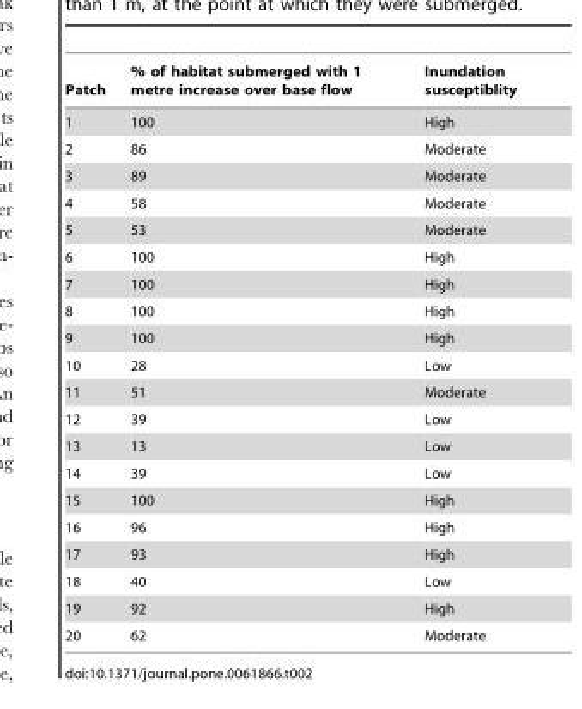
<table><thead><tr><td>Patch</td><td>% of habitat submerged with 1 metre increase over base flow</td><td>Inundation susceptiblity</td></tr></thead><tbody><tr><td>1</td><td>100</td><td>High</td></tr><tr><td>2</td><td>86</td><td>Moderate</td></tr><tr><td>3</td><td>89</td><td>Moderate</td></tr><tr><td>4</td><td>58</td><td>Moderate</td></tr><tr><td>5</td><td>53</td><td>Moderate</td></tr><tr><td>6</td><td>100</td><td>High</td></tr><tr><td>7</td><td>100</td><td>High</td></tr><tr><td>8</td><td>100</td><td>High</td></tr><tr><td>9</td><td>100</td><td>High</td></tr><tr><td>10</td><td>28</td><td>Low</td></tr><tr><td>11</td><td>51</td><td>Moderate</td></tr><tr><td>12</td><td>39</td><td>Low</td></tr><tr><td>13</td><td>13</td><td>Low</td></tr><tr><td>14</td><td>39</td><td>Low</td></tr><tr><td>15</td><td>100</td><td>High</td></tr><tr><td>16</td><td>96</td><td>High</td></tr><tr><td>17</td><td>93</td><td>High</td></tr><tr><td>18</td><td>40</td><td>Low</td></tr><tr><td>19</td><td>92</td><td>High</td></tr><tr><td>20</td><td>62</td><td>Moderate</td></tr></tbody></table>